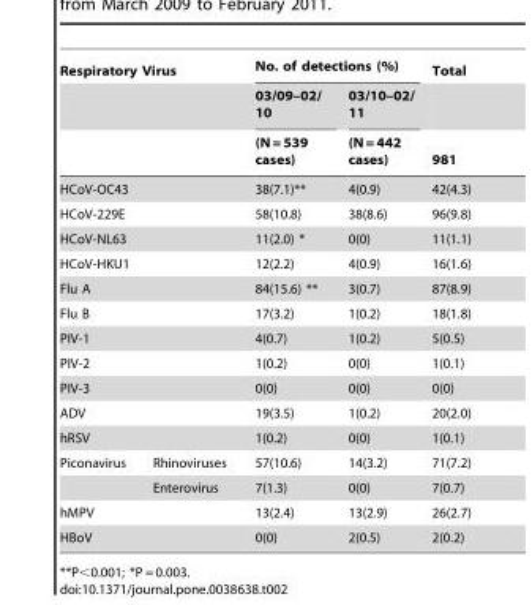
<table><thead><tr><td colspan="2">Respiratory Virus</td><td colspan="2">No. of detections (%)</td><td rowspan="3">Total 981</td></tr><tr><td rowspan="2"></td><td rowspan="2"></td><td rowspan="2">03/09–02/ 10 (N = 539 cases)</td><td rowspan="2">03/10–02/ 11 (N = 442 cases)</td></tr><tr></tr></thead><tbody><tr><td colspan="2">HCoV-OC43</td><td>38(7.1)**</td><td>4(0.9)</td><td>42(4.3)</td></tr><tr><td colspan="2">HCoV-229E</td><td>58(10.8)</td><td>38(8.6)</td><td>96(9.8)</td></tr><tr><td colspan="2">HCoV-NL63</td><td>11(2.0) *</td><td>0(0)</td><td>11(1.1)</td></tr><tr><td colspan="2">HCoV-HKU1</td><td>12(2.2)</td><td>4(0.9)</td><td>16(1.6)</td></tr><tr><td colspan="2">Flu A</td><td>84(15.6) **</td><td>3(0.7)</td><td>87(8.9)</td></tr><tr><td colspan="2">Flu B</td><td>17(3.2)</td><td>1(0.2)</td><td>18(1.8)</td></tr><tr><td colspan="2">PIV-1</td><td>4(0.7)</td><td>1(0.2)</td><td>5(0.5)</td></tr><tr><td colspan="2">PIV-2</td><td>1(0.2)</td><td>0(0)</td><td>1(0.1)</td></tr><tr><td colspan="2">PIV-3</td><td>0(0)</td><td>0(0)</td><td>0(0)</td></tr><tr><td colspan="2">ADV</td><td>19(3.5)</td><td>1(0.2)</td><td>20(2.0)</td></tr><tr><td colspan="2">hRSV</td><td>1(0.2)</td><td>0(0)</td><td>1(0.1)</td></tr><tr><td rowspan="2">Piconavirus</td><td>Rhinoviruses</td><td>57(10.6)</td><td>14(3.2)</td><td>71(7.2)</td></tr><tr><td>Enterovirus</td><td>7(1.3)</td><td>0(0)</td><td>7(0.7)</td></tr><tr><td colspan="2">hMPV</td><td>13(2.4)</td><td>13(2.9)</td><td>26(2.7)</td></tr><tr><td colspan="2">HBoV</td><td>0(0)</td><td>2(0.5)</td><td>2(0.2)</td></tr></tbody></table>